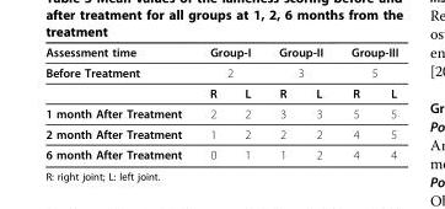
<table><thead><tr><td rowspan="3">Assessment time Before Treatment</td><td rowspan="2" colspan="2">Group-I 2</td><td rowspan="2" colspan="2">Group-II 3</td><td rowspan="2" colspan="2">Group-III 5</td></tr><tr></tr><tr><td>R</td><td>L</td><td>R</td><td>L</td><td>R</td><td>L</td></tr></thead><tbody><tr><td>1 month After Treatment</td><td>2</td><td>2</td><td>3</td><td>3</td><td>5</td><td>5</td></tr><tr><td>2 month After Treatment</td><td>1</td><td>2</td><td>2</td><td>2</td><td>4</td><td>5</td></tr><tr><td>6 month After Treatment</td><td>0</td><td>1</td><td>1</td><td>2</td><td>4</td><td>4</td></tr></tbody></table>